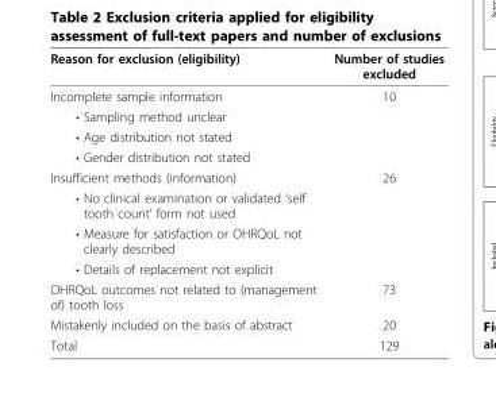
<table><thead><tr><td>Reason for exclusion (eligibility)</td><td>Number of studies excluded</td></tr></thead><tbody><tr><td>Incomplete sample information</td><td>10</td></tr><tr><td colspan="2">• Sampling method unclear</td></tr><tr><td colspan="2">• Age distribution not stated</td></tr><tr><td colspan="2">• Gender distribution not stated</td></tr><tr><td>Insufficient methods (information)</td><td>26</td></tr><tr><td colspan="2">• No clinical examination or validated ‘self tooth count’ form not used</td></tr><tr><td colspan="2">• Measure for satisfaction or OHRQoL not clearly described</td></tr><tr><td colspan="2">• Details of replacement not explicit</td></tr><tr><td>OHRQoL outcomes not related to (management of) tooth loss</td><td>73</td></tr><tr><td>Mistakenly included on the basis of abstract</td><td>20</td></tr><tr><td>Total</td><td>129</td></tr></tbody></table>